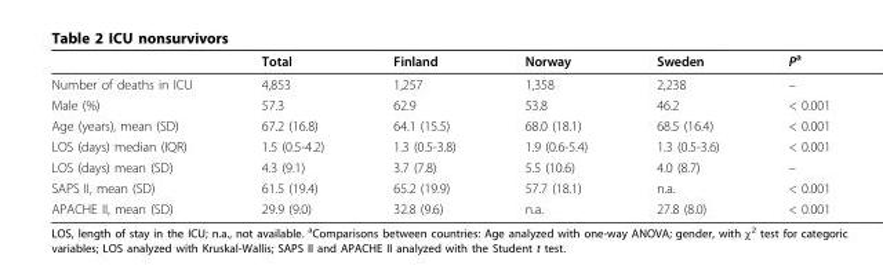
<table><thead><tr><td></td><td>Total</td><td>Finland</td><td>Norway</td><td>Sweden</td><td>P<sup>a</sup></td></tr></thead><tbody><tr><td>Number of deaths in ICU</td><td>4,853</td><td>1,257</td><td>1,358</td><td>2,238</td><td>–</td></tr><tr><td>Male (%)</td><td>57.3</td><td>62.9</td><td>53.8</td><td>46.2</td><td>&lt; 0.001</td></tr><tr><td>Age (years), mean (SD)</td><td>67.2 (16.8)</td><td>64.1 (15.5)</td><td>68.0 (18.1)</td><td>68.5 (16.4)</td><td>&lt; 0.001</td></tr><tr><td>LOS (days) median (IQR)</td><td>1.5 (0.5-4.2)</td><td>1.3 (0.5-3.8)</td><td>1.9 (0.6-5.4)</td><td>1.3 (0.5-3.6)</td><td>&lt; 0.001</td></tr><tr><td>LOS (days) mean (SD)</td><td>4.3 (9.1)</td><td>3.7 (7.8)</td><td>5.5 (10.6)</td><td>4.0 (8.7)</td><td>–</td></tr><tr><td>SAPS II, mean (SD)</td><td>61.5 (19.4)</td><td>65.2 (19.9)</td><td>57.7 (18.1)</td><td>n.a.</td><td>&lt; 0.001</td></tr><tr><td>APACHE II, mean (SD)</td><td>29.9 (9.0)</td><td>32.8 (9.6)</td><td>n.a.</td><td>27.8 (8.0)</td><td>&lt; 0.001</td></tr></tbody></table>